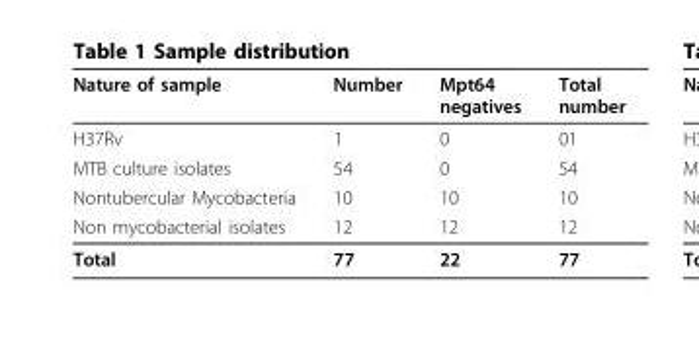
<table><thead><tr><td>Nature of sample</td><td>Number</td><td>Mpt64 negatives</td><td>Total number</td></tr></thead><tbody><tr><td>H37Rv</td><td>1</td><td>0</td><td>01</td></tr><tr><td>MTB culture isolates</td><td>54</td><td>0</td><td>54</td></tr><tr><td>Nontubercular Mycobacteria</td><td>10</td><td>10</td><td>10</td></tr><tr><td>Non mycobacterial isolates</td><td>12</td><td>12</td><td>12</td></tr><tr><td>Total</td><td>77</td><td>22</td><td>77</td></tr></tbody></table>